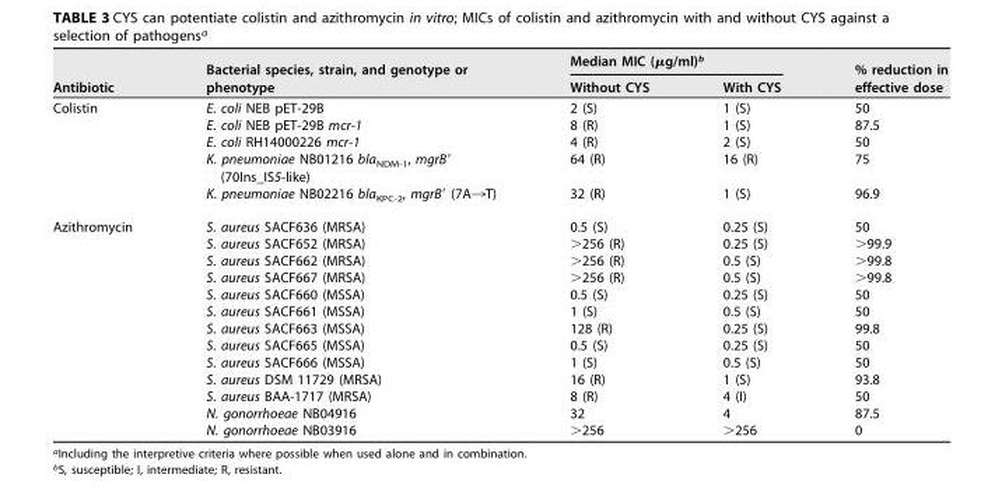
<table><thead><tr><td rowspan="2">Antibiotic</td><td rowspan="2">Bacterial species, strain, and genotype or phenotype</td><td colspan="2">Median MIC (μg/ml)<sup>b</sup></td><td rowspan="2">% reduction in effective dose</td></tr><tr><td>Without CYS</td><td>With CYS</td></tr></thead><tbody><tr><td rowspan="5">Colistin</td><td>E. coli NEB pET-29B</td><td>2 (S)</td><td>1 (S)</td><td>50</td></tr><tr><td>E. coli NEB pET-29B mcr-1</td><td>8 (R)</td><td>1 (S)</td><td>87.5</td></tr><tr><td>E. coli RH14000226 mcr-1</td><td>4 (R)</td><td>2 (S)</td><td>50</td></tr><tr><td>K. pneumoniae NB01216 blaNDM-1, mgrB= (70Ins_IS5-like)</td><td>64 (R)</td><td>16 (R)</td><td>75</td></tr><tr><td>K. pneumoniae NB02216 blaKPC-2, mgrB= (7A¡T)</td><td>32 (R)</td><td>1 (S)</td><td>96.9</td></tr><tr><td rowspan="13">Azithromycin</td><td>S. aureus SACF636 (MRSA)</td><td>0.5 (S)</td><td>0.25 (S)</td><td>50</td></tr><tr><td>S. aureus SACF652 (MRSA)</td><td>&gt;256 (R)</td><td>0.25 (S)</td><td>&gt;99.9</td></tr><tr><td>S. aureus SACF662 (MRSA)</td><td>&gt;256 (R)</td><td>0.5 (S)</td><td>&gt;99.8</td></tr><tr><td>S. aureus SACF667 (MRSA)</td><td>&gt;256 (R)</td><td>0.5 (S)</td><td>&gt;99.8</td></tr><tr><td>S. aureus SACF660 (MSSA)</td><td>0.5 (S)</td><td>0.25 (S)</td><td>50</td></tr><tr><td>S. aureus SACF661 (MSSA)</td><td>1 (S)</td><td>0.5 (S)</td><td>50</td></tr><tr><td>S. aureus SACF663 (MSSA)</td><td>128 (R)</td><td>0.25 (S)</td><td>99.8</td></tr><tr><td>S. aureus SACF665 (MSSA)</td><td>0.5 (S)</td><td>0.25 (S)</td><td>50</td></tr><tr><td>S. aureus SACF666 (MSSA)</td><td>1 (S)</td><td>0.5 (S)</td><td>50</td></tr><tr><td>S. aureus DSM 11729 (MRSA)</td><td>16 (R)</td><td>1 (S)</td><td>93.8</td></tr><tr><td>S. aureus BAA-1717 (MRSA)</td><td>8 (R)</td><td>4 (I)</td><td>50</td></tr><tr><td>N. gonorrhoeae NB04916</td><td>32</td><td>4</td><td>87.5</td></tr><tr><td>N. gonorrhoeae NB03916</td><td>&gt;256</td><td>&gt;256</td><td>0</td></tr></tbody></table>